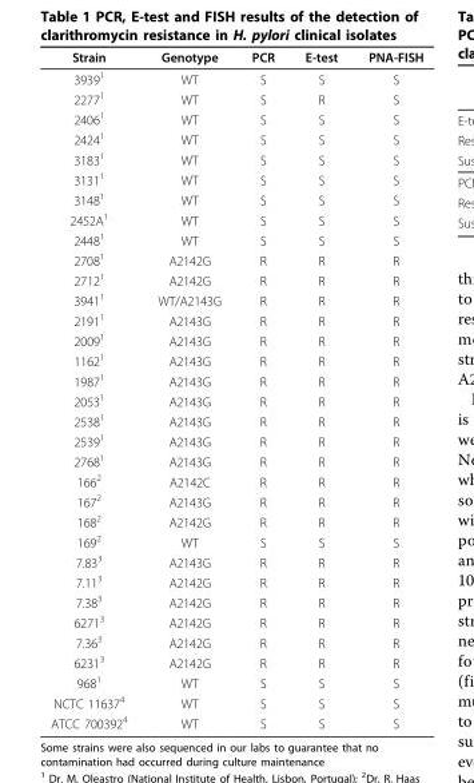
<table><thead><tr><td>Strain</td><td>Genotype</td><td>PCR</td><td>E-test</td><td>PNA-FISH</td></tr></thead><tbody><tr><td>3939<sup>1</sup></td><td>WT</td><td>S</td><td>S</td><td>S</td></tr><tr><td>2277<sup>1</sup></td><td>WT</td><td>S</td><td>R</td><td>S</td></tr><tr><td>2406<sup>1</sup></td><td>WT</td><td>S</td><td>S</td><td>S</td></tr><tr><td>2424<sup>1</sup></td><td>WT</td><td>S</td><td>S</td><td>S</td></tr><tr><td>3183<sup>1</sup></td><td>WT</td><td>S</td><td>S</td><td>S</td></tr><tr><td>3131<sup>1</sup></td><td>WT</td><td>S</td><td>S</td><td>S</td></tr><tr><td>3148<sup>1</sup></td><td>WT</td><td>S</td><td>S</td><td>S</td></tr><tr><td>2452A<sup>1</sup></td><td>WT</td><td>S</td><td>S</td><td>S</td></tr><tr><td>2448<sup>1</sup></td><td>WT</td><td>S</td><td>S</td><td>S</td></tr><tr><td>2708<sup>1</sup></td><td>A2142G</td><td>R</td><td>R</td><td>R</td></tr><tr><td>2712<sup>1</sup></td><td>A2142G</td><td>R</td><td>R</td><td>R</td></tr><tr><td>3941<sup>1</sup></td><td>WT/A2143G</td><td>R</td><td>R</td><td>R</td></tr><tr><td>2191<sup>1</sup></td><td>A2143G</td><td>R</td><td>R</td><td>R</td></tr><tr><td>2009<sup>1</sup></td><td>A2143G</td><td>R</td><td>R</td><td>R</td></tr><tr><td>1162<sup>1</sup></td><td>A2143G</td><td>R</td><td>R</td><td>R</td></tr><tr><td>1987<sup>1</sup></td><td>A2143G</td><td>R</td><td>R</td><td>R</td></tr><tr><td>2053<sup>1</sup></td><td>A2143G</td><td>R</td><td>R</td><td>R</td></tr><tr><td>2538<sup>1</sup></td><td>A2143G</td><td>R</td><td>R</td><td>R</td></tr><tr><td>2539<sup>1</sup></td><td>A2143G</td><td>R</td><td>R</td><td>R</td></tr><tr><td>2768<sup>1</sup></td><td>A2143G</td><td>R</td><td>R</td><td>R</td></tr><tr><td>166<sup>2</sup></td><td>A2142C</td><td>R</td><td>R</td><td>R</td></tr><tr><td>167<sup>2</sup></td><td>A2143G</td><td>R</td><td>R</td><td>R</td></tr><tr><td>168<sup>2</sup></td><td>A2142G</td><td>R</td><td>R</td><td>R</td></tr><tr><td>169<sup>2</sup></td><td>WT</td><td>S</td><td>S</td><td>S</td></tr><tr><td>7.83<sup>3</sup></td><td>A2143G</td><td>R</td><td>R</td><td>R</td></tr><tr><td>7.11<sup>3</sup></td><td>A2142G</td><td>R</td><td>R</td><td>R</td></tr><tr><td>7.38<sup>3</sup></td><td>A2142G</td><td>R</td><td>R</td><td>R</td></tr><tr><td>6271<sup>3</sup></td><td>A2142G</td><td>R</td><td>R</td><td>R</td></tr><tr><td>7.36<sup>3</sup></td><td>A2142G</td><td>R</td><td>R</td><td>R</td></tr><tr><td>6231<sup>3</sup></td><td>A2142G</td><td>R</td><td>R</td><td>R</td></tr><tr><td>968<sup>1</sup></td><td>WT</td><td>S</td><td>S</td><td>S</td></tr><tr><td>NCTC 11637<sup>4</sup></td><td>WT</td><td>S</td><td>S</td><td>S</td></tr><tr><td>ATCC 700392<sup>4</sup></td><td>WT</td><td>S</td><td>S</td><td>S</td></tr></tbody></table>